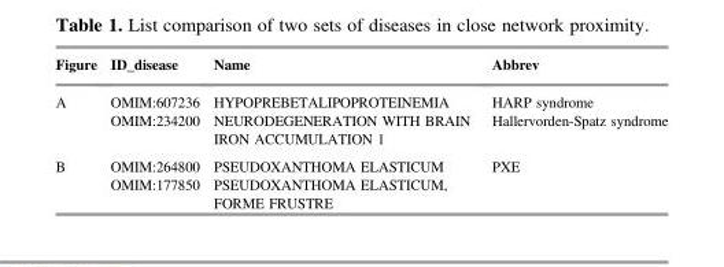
<table><thead><tr><td>Figure</td><td>ID_disease</td><td>Name</td><td>Abbrev</td></tr></thead><tbody><tr><td rowspan="2">A</td><td>OMIM:607236</td><td>HYPOPREBETALIPOPROTEINEMIA</td><td>HARP syndrome</td></tr><tr><td>OMIM:234200</td><td>NEURODEGENERATION WITH BRAIN IRON ACCUMULATION 1</td><td>Hallervorden-Spatz syndrome</td></tr><tr><td rowspan="2">B</td><td>OMIM:264800</td><td>PSEUDOXANTHOMA ELASTICUM</td><td>PXE</td></tr><tr><td>OMIM:177850</td><td>PSEUDOXANTHOMA ELASTICUM, FORME FRUSTRE</td><td></td></tr></tbody></table>